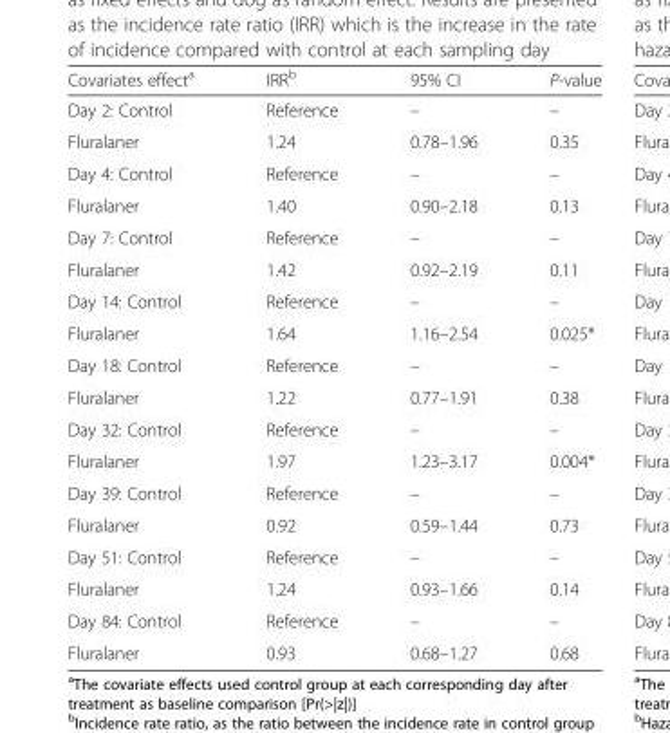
<table><thead><tr><td>Covariates effect<sup>a</sup></td><td>IRR<sup>b</sup></td><td>95% CI</td><td>P-value</td></tr></thead><tbody><tr><td>Day 2: Control</td><td>Reference</td><td>–</td><td>–</td></tr><tr><td>Fluralaner</td><td>1.24</td><td>0.78–1.96</td><td>0.35</td></tr><tr><td>Day 4: Control</td><td>Reference</td><td>–</td><td>–</td></tr><tr><td>Fluralaner</td><td>1.40</td><td>0.90–2.18</td><td>0.13</td></tr><tr><td>Day 7: Control</td><td>Reference</td><td>–</td><td>–</td></tr><tr><td>Fluralaner</td><td>1.42</td><td>0.92–2.19</td><td>0.11</td></tr><tr><td>Day 14: Control</td><td>Reference</td><td>–</td><td>–</td></tr><tr><td>Fluralaner</td><td>1.64</td><td>1.16–2.54</td><td>0.025*</td></tr><tr><td>Day 18: Control</td><td>Reference</td><td>–</td><td>–</td></tr><tr><td>Fluralaner</td><td>1.22</td><td>0.77–1.91</td><td>0.38</td></tr><tr><td>Day 32: Control</td><td>Reference</td><td>–</td><td>–</td></tr><tr><td>Fluralaner</td><td>1.97</td><td>1.23–3.17</td><td>0.004*</td></tr><tr><td>Day 39: Control</td><td>Reference</td><td>–</td><td>–</td></tr><tr><td>Fluralaner</td><td>0.92</td><td>0.59–1.44</td><td>0.73</td></tr><tr><td>Day 51: Control</td><td>Reference</td><td>–</td><td>–</td></tr><tr><td>Fluralaner</td><td>1.24</td><td>0.93–1.66</td><td>0.14</td></tr><tr><td>Day 84: Control</td><td>Reference</td><td>–</td><td>–</td></tr><tr><td>Fluralaner</td><td>0.93</td><td>0.68–1.27</td><td>0.68</td></tr></tbody></table>